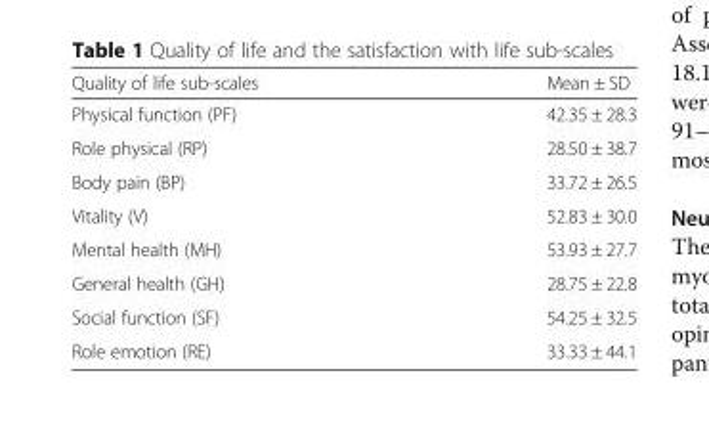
<table><thead><tr><td>Quality of life sub-scales</td><td>Mean ± SD</td></tr></thead><tbody><tr><td>Physical function (PF)</td><td>42.35 ± 28.3</td></tr><tr><td>Role physical (RP)</td><td>28.50 ± 38.7</td></tr><tr><td>Body pain (BP)</td><td>33.72 ± 26.5</td></tr><tr><td>Vitality (V)</td><td>52.83 ± 30.0</td></tr><tr><td>Mental health (MH)</td><td>53.93 ± 27.7</td></tr><tr><td>General health (GH)</td><td>28.75 ± 22.8</td></tr><tr><td>Social function (SF)</td><td>54.25 ± 32.5</td></tr><tr><td>Role emotion (RE)</td><td>33.33 ± 44.1</td></tr></tbody></table>